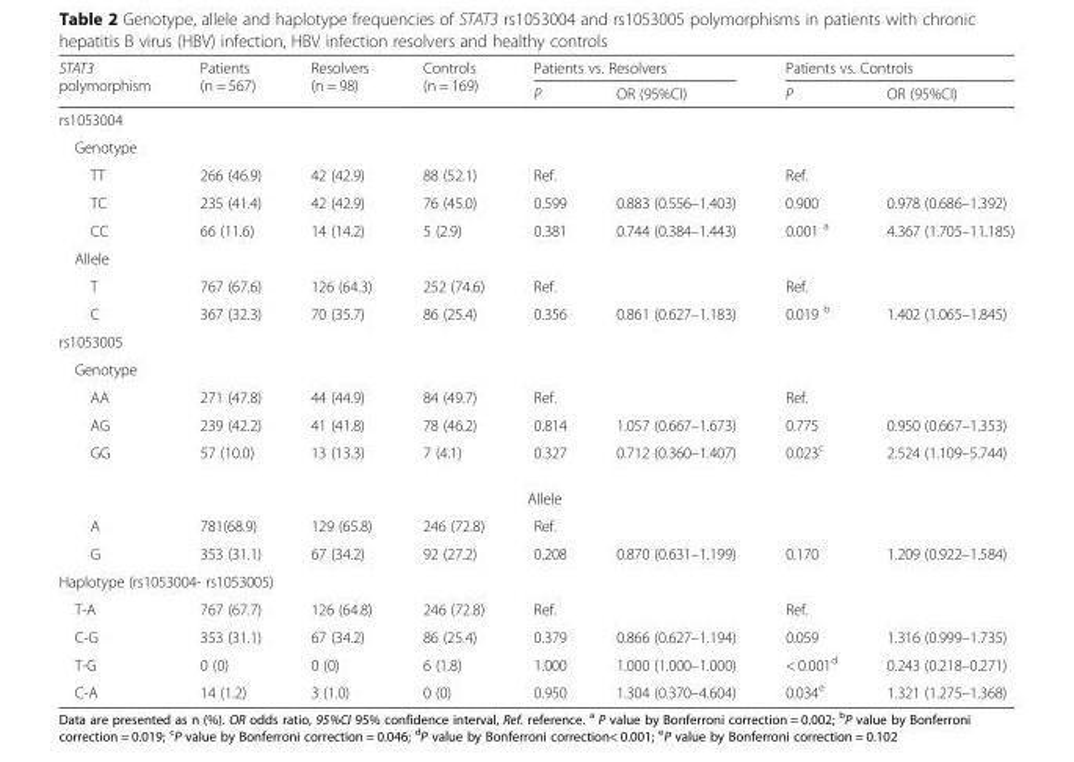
<table><thead><tr><td rowspan="2">STAT3 polymorphism</td><td rowspan="2">Patients (n = 567)</td><td rowspan="2">Resolvers (n = 98)</td><td rowspan="2">Controls (n = 169)</td><td colspan="2">Patients vs. Resolvers</td><td colspan="2">Patients vs. Controls</td></tr><tr><td>P</td><td>OR (95%CI)</td><td>P</td><td>OR (95%CI)</td></tr></thead><tbody><tr><td colspan="8">rs1053004</td></tr><tr><td colspan="8">Genotype</td></tr><tr><td>TT</td><td>266 (46.9)</td><td>42 (42.9)</td><td>88 (52.1)</td><td>Ref.</td><td></td><td>Ref.</td><td></td></tr><tr><td>TC</td><td>235 (41.4)</td><td>42 (42.9)</td><td>76 (45.0)</td><td>0.599</td><td>0.883 (0.556–1.403)</td><td>0.900</td><td>0.978 (0.686–1.392)</td></tr><tr><td>CC</td><td>66 (11.6)</td><td>14 (14.2)</td><td>5 (2.9)</td><td>0.381</td><td>0.744 (0.384–1.443)</td><td>0.001 <sup>a</sup></td><td>4.367 (1.705–11.185)</td></tr><tr><td colspan="8">Allele</td></tr><tr><td>T</td><td>767 (67.6)</td><td>126 (64.3)</td><td>252 (74.6)</td><td>Ref.</td><td></td><td>Ref.</td><td></td></tr><tr><td>C</td><td>367 (32.3)</td><td>70 (35.7)</td><td>86 (25.4)</td><td>0.356</td><td>0.861 (0.627–1.183)</td><td>0.019 <sup>b</sup></td><td>1.402 (1.065–1.845)</td></tr><tr><td colspan="8">rs1053005</td></tr><tr><td colspan="8">Genotype</td></tr><tr><td>AA</td><td>271 (47.8)</td><td>44 (44.9)</td><td>84 (49.7)</td><td>Ref.</td><td></td><td>Ref.</td><td></td></tr><tr><td>AG</td><td>239 (42.2)</td><td>41 (41.8)</td><td>78 (46.2)</td><td>0.814</td><td>1.057 (0.667–1.673)</td><td>0.775</td><td>0.950 (0.667–1.353)</td></tr><tr><td>GG</td><td>57 (10.0)</td><td>13 (13.3)</td><td>7 (4.1)</td><td>0.327</td><td>0.712 (0.360–1.407)</td><td>0.023<sup>c</sup></td><td>2.524 (1.109–5.744)</td></tr><tr><td colspan="8">Allele</td></tr><tr><td>A</td><td>781(68.9)</td><td>129 (65.8)</td><td>246 (72.8)</td><td>Ref.</td><td></td><td></td><td></td></tr><tr><td>G</td><td>353 (31.1)</td><td>67 (34.2)</td><td>92 (27.2)</td><td>0.208</td><td>0.870 (0.631–1.199)</td><td>0.170</td><td>1.209 (0.922–1.584)</td></tr><tr><td colspan="8">Haplotype (rs1053004- rs1053005)</td></tr><tr><td>T-A</td><td>767 (67.7)</td><td>126 (64.8)</td><td>246 (72.8)</td><td>Ref.</td><td></td><td>Ref.</td><td></td></tr><tr><td>C-G</td><td>353 (31.1)</td><td>67 (34.2)</td><td>86 (25.4)</td><td>0.379</td><td>0.866 (0.627–1.194)</td><td>0.059</td><td>1.316 (0.999–1.735)</td></tr><tr><td>T-G</td><td>0 (0)</td><td>0 (0)</td><td>6 (1.8)</td><td>1.000</td><td>1.000 (1.000–1.000)</td><td>&lt; 0.001<sup>d</sup></td><td>0.243 (0.218–0.271)</td></tr><tr><td>C-A</td><td>14 (1.2)</td><td>3 (1.0)</td><td>0 (0)</td><td>0.950</td><td>1.304 (0.370–4.604)</td><td>0.034<sup>e</sup></td><td>1.321 (1.275–1.368)</td></tr></tbody></table>